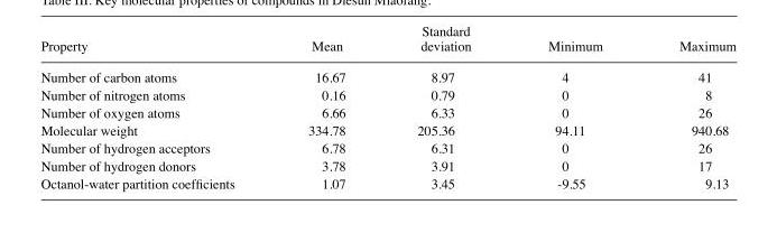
<table><thead><tr><td>Property</td><td>Mean</td><td>deviation</td><td>Minimum</td><td>Maximum</td></tr></thead><tbody><tr><td>Number of carbon atoms</td><td>16.67</td><td>8.97</td><td>4</td><td>41</td></tr><tr><td>Number of nitrogen atoms</td><td>0.16</td><td>0.79</td><td>0</td><td>8</td></tr><tr><td>Number of oxygen atoms</td><td>6.66</td><td>6.33</td><td>0</td><td>26</td></tr><tr><td>Molecular weight</td><td>334.78</td><td>205.36</td><td>94.11</td><td>940.68</td></tr><tr><td>Number of hydrogen acceptors</td><td>6.78</td><td>6.31</td><td>0</td><td>26</td></tr><tr><td>Number of hydrogen donors</td><td>3.78</td><td>3.91</td><td>0</td><td>17</td></tr><tr><td>Octanol‑water partition coefficients</td><td>1.07</td><td>3.45</td><td>‑9.55</td><td>9.13</td></tr></tbody></table>